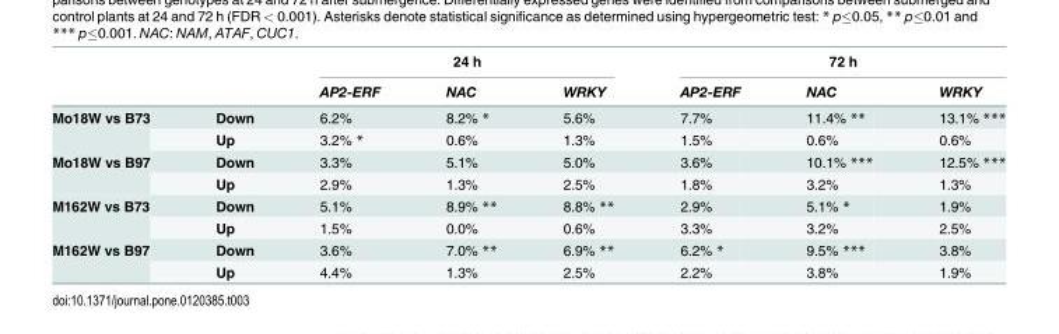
<table><thead><tr><td rowspan="2"></td><td rowspan="2"></td><td colspan="3">24 h</td><td colspan="3">72 h</td></tr><tr><td>AP2-ERF</td><td>NAC</td><td>WRKY</td><td>AP2-ERF</td><td>NAC</td><td>WRKY</td></tr></thead><tbody><tr><td rowspan="2">Mo18W vs B73</td><td>Down</td><td>6.2%</td><td>8.2% *</td><td>5.6%</td><td>7.7%</td><td>11.4% **</td><td>13.1% ***</td></tr><tr><td>Up</td><td>3.2% *</td><td>0.6%</td><td>1.3%</td><td>1.5%</td><td>0.6%</td><td>0.6%</td></tr><tr><td rowspan="2">Mo18W vs B97</td><td>Down</td><td>3.3%</td><td>5.1%</td><td>5.0%</td><td>3.6%</td><td>10.1% ***</td><td>12.5% ***</td></tr><tr><td>Up</td><td>2.9%</td><td>1.3%</td><td>2.5%</td><td>1.8%</td><td>3.2%</td><td>1.3%</td></tr><tr><td rowspan="2">M162W vs B73</td><td>Down</td><td>5.1%</td><td>8.9% **</td><td>8.8% **</td><td>2.9%</td><td>5.1% *</td><td>1.9%</td></tr><tr><td>Up</td><td>1.5%</td><td>0.0%</td><td>0.6%</td><td>3.3%</td><td>3.2%</td><td>2.5%</td></tr><tr><td rowspan="2">M162W vs B97</td><td>Down</td><td>3.6%</td><td>7.0% **</td><td>6.9% **</td><td>6.2% *</td><td>9.5% ***</td><td>3.8%</td></tr><tr><td>Up</td><td>4.4%</td><td>1.3%</td><td>2.5%</td><td>2.2%</td><td>3.8%</td><td>1.9%</td></tr></tbody></table>